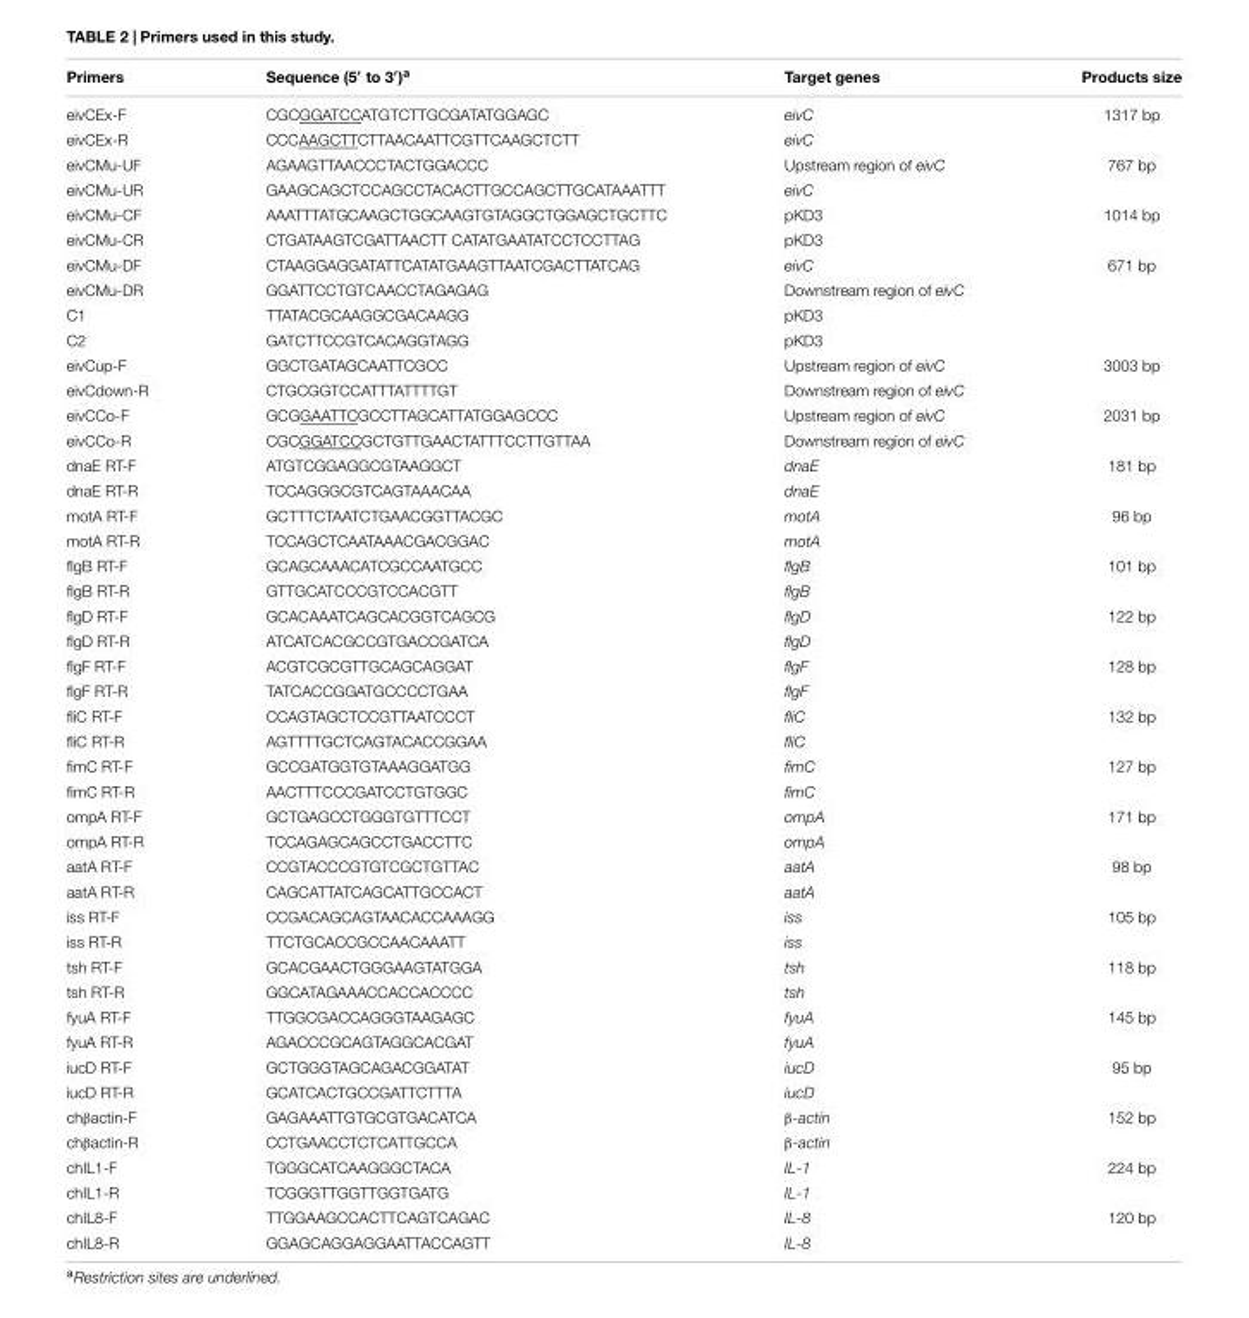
<table><thead><tr><td>Primers</td><td>Sequence (5′ to 3′)<sup>a</sup></td><td>Target genes</td><td>Products size</td></tr></thead><tbody><tr><td>eivCEx-F</td><td>CGCGGATCCATGTCTTGCGATATGGAGC</td><td>eivC</td><td>1317 bp</td></tr><tr><td>eivCEx-R</td><td>CCCAAGCTTCTTAACAATTCGTTCAAGCTCTT</td><td>eivC</td><td></td></tr><tr><td>eivCMu-UF</td><td>AGAAGTTAACCCTACTGGACCC</td><td>Upstream region of eivC</td><td>767 bp</td></tr><tr><td>eivCMu-UR</td><td>GAAGCAGCTCCAGCCTACACTTGCCAGCTTGCATAAATTT</td><td>eivC</td><td></td></tr><tr><td>eivCMu-CF</td><td>AAATTTATGCAAGCTGGCAAGTGTAGGCTGGAGCTGCTTC</td><td>pKD3</td><td>1014 bp</td></tr><tr><td>eivCMu-CR</td><td>CTGATAAGTCGATTAACTT CATATGAATATCCTCCTTAG</td><td>pKD3</td><td></td></tr><tr><td>eivCMu-DF</td><td>CTAAGGAGGATATTCATATGAAGTTAATCGACTTATCAG</td><td>eivC</td><td>671 bp</td></tr><tr><td>eivCMu-DR</td><td>GGATTCCTGTCAACCTAGAGAG</td><td>Downstream region of eivC</td><td></td></tr><tr><td>C1</td><td>TTATACGCAAGGCGACAAGG</td><td>pKD3</td><td></td></tr><tr><td>C2</td><td>GATCTTCCGTCACAGGTAGG</td><td>pKD3</td><td></td></tr><tr><td>eivCup-F</td><td>GGCTGATAGCAATTCGCC</td><td>Upstream region of eivC</td><td>3003 bp</td></tr><tr><td>eivCdown-R</td><td>CTGCGGTCCATTTATTTTGT</td><td>Downstream region of eivC</td><td></td></tr><tr><td>eivCCo-F</td><td>GCGGAATTCGCCTTAGCATTATGGAGCCC</td><td>Upstream region of eivC</td><td>2031 bp</td></tr><tr><td>eivCCo-R</td><td>CGCGGATCCGCTGTTGAACTATTTCCTTGTTAA</td><td>Downstream region of eivC</td><td></td></tr><tr><td>dnaE RT-F</td><td>ATGTCGGAGGCGTAAGGCT</td><td>dnaE</td><td>181 bp</td></tr><tr><td>dnaE RT-R</td><td>TCCAGGGCGTCAGTAAACAA</td><td>dnaE</td><td></td></tr><tr><td>motA RT-F</td><td>GCTTTCTAATCTGAACGGTTACGC</td><td>motA</td><td>96 bp</td></tr><tr><td>motA RT-R</td><td>TCCAGCTCAATAAACGACGGAC</td><td>motA</td><td></td></tr><tr><td>flgB RT-F</td><td>GCAGCAAACATCGCCAATGCC</td><td>flgB</td><td>101 bp</td></tr><tr><td>flgB RT-R</td><td>GTTGCATCCCGTCCACGTT</td><td>flgB</td><td></td></tr><tr><td>flgD RT-F</td><td>GCACAAATCAGCACGGTCAGCG</td><td>flgD</td><td>122 bp</td></tr><tr><td>flgD RT-R</td><td>ATCATCACGCCGTGACCGATCA</td><td>flgD</td><td></td></tr><tr><td>flgF RT-F</td><td>ACGTCGCGTTGCAGCAGGAT</td><td>flgF</td><td>128 bp</td></tr><tr><td>flgF RT-R</td><td>TATCACCGGATGCCCCTGAA</td><td>flgF</td><td></td></tr><tr><td>fliC RT-F</td><td>CCAGTAGCTCCGTTAATCCCT</td><td>fliC</td><td>132 bp</td></tr><tr><td>fliC RT-R</td><td>AGTTTTGCTCAGTACACCGGAA</td><td>fliC</td><td></td></tr><tr><td>fimC RT-F</td><td>GCCGATGGTGTAAAGGATGG</td><td>fimC</td><td>127 bp</td></tr><tr><td>fimC RT-R</td><td>AACTTTCCCGATCCTGTGGC</td><td>fimC</td><td></td></tr><tr><td>ompA RT-F</td><td>GCTGAGCCTGGGTGTTTCCT</td><td>ompA</td><td>171 bp</td></tr><tr><td>ompA RT-R</td><td>TCCAGAGCAGCCTGACCTTC</td><td>ompA</td><td></td></tr><tr><td>aatA RT-F</td><td>CCGTACCCGTGTCGCTGTTAC</td><td>aatA</td><td>98 bp</td></tr><tr><td>aatA RT-R</td><td>CAGCATTATCAGCATTGCCACT</td><td>aatA</td><td></td></tr><tr><td>iss RT-F</td><td>CCGACAGCAGTAACACCAAAGG</td><td>iss</td><td>105 bp</td></tr><tr><td>iss RT-R</td><td>TTCTGCACCGCCAACAAATT</td><td>iss</td><td></td></tr><tr><td>tsh RT-F</td><td>GCACGAACTGGGAAGTATGGA</td><td>tsh</td><td>118 bp</td></tr><tr><td>tsh RT-R</td><td>GGCATAGAAACCACCACCCC</td><td>tsh</td><td></td></tr><tr><td>fyuA RT-F</td><td>TTGGCGACCAGGGTAAGAGC</td><td>fyuA</td><td>145 bp</td></tr><tr><td>fyuA RT-R</td><td>AGACCCGCAGTAGGCACGAT</td><td>fyuA</td><td></td></tr><tr><td>iucD RT-F</td><td>GCTGGGTAGCAGACGGATAT</td><td>iucD</td><td>95 bp</td></tr><tr><td>iucD RT-R</td><td>GCATCACTGCCGATTCTTTA</td><td>iucD</td><td></td></tr><tr><td>chβactin-F</td><td>GAGAAATTGTGCGTGACATCA</td><td>β-actin</td><td>152 bp</td></tr><tr><td>chβactin-R</td><td>CCTGAACCTCTCATTGCCA</td><td>β-actin</td><td></td></tr><tr><td>chIL1-F</td><td>TGGGCATCAAGGGCTACA</td><td>IL-1</td><td>224 bp</td></tr><tr><td>chIL1-R</td><td>TCGGGTTGGTTGGTGATG</td><td>IL-1</td><td></td></tr><tr><td>chIL8-F</td><td>TTGGAAGCCACTTCAGTCAGAC</td><td>IL-8</td><td>120 bp</td></tr><tr><td>chIL8-R</td><td>GGAGCAGGAGGAATTACCAGTT</td><td>IL-8</td><td></td></tr></tbody></table>